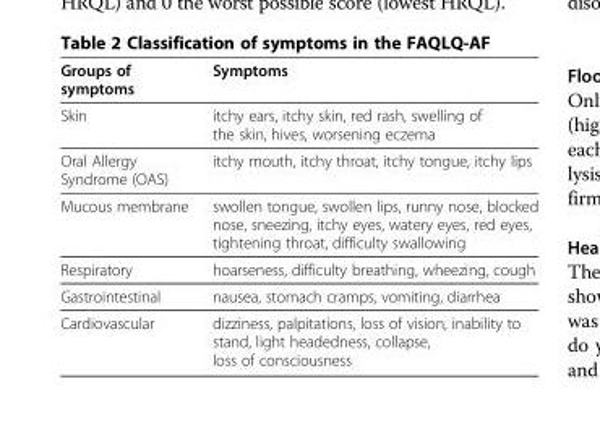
<table><thead><tr><td>Groups of symptoms</td><td>Symptoms</td></tr></thead><tbody><tr><td>Skin</td><td>itchy ears, itchy skin, red rash, swelling of the skin, hives, worsening eczema</td></tr><tr><td>Oral Allergy Syndrome (OAS)</td><td>itchy mouth, itchy throat, itchy tongue, itchy lips</td></tr><tr><td>Mucous membrane</td><td>swollen tongue, swollen lips, runny nose, blocked nose, sneezing, itchy eyes, watery eyes, red eyes, tightening throat, difficulty swallowing</td></tr><tr><td>Respiratory</td><td>hoarseness, difficulty breathing, wheezing, cough</td></tr><tr><td>Gastrointestinal</td><td>nausea, stomach cramps, vomiting, diarrhea</td></tr><tr><td>Cardiovascular</td><td>dizziness, palpitations, loss of vision, inability to stand, light headedness, collapse, loss of consciousness</td></tr></tbody></table>